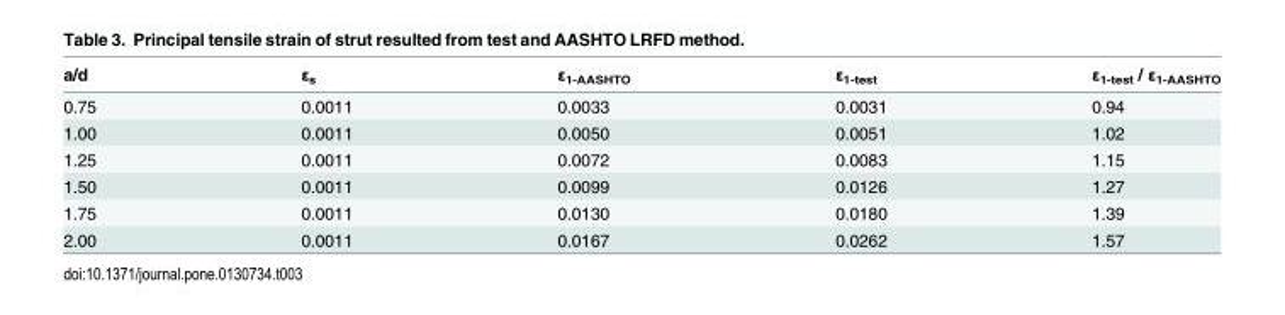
<table><thead><tr><td>a/d</td><td>εs</td><td>ε1-AASHTO</td><td>ε1-test</td><td>ε1-test / ε1-AASHTO</td></tr></thead><tbody><tr><td>0.75</td><td>0.0011</td><td>0.0033</td><td>0.0031</td><td>0.94</td></tr><tr><td>1.00</td><td>0.0011</td><td>0.0050</td><td>0.0051</td><td>1.02</td></tr><tr><td>1.25</td><td>0.0011</td><td>0.0072</td><td>0.0083</td><td>1.15</td></tr><tr><td>1.50</td><td>0.0011</td><td>0.0099</td><td>0.0126</td><td>1.27</td></tr><tr><td>1.75</td><td>0.0011</td><td>0.0130</td><td>0.0180</td><td>1.39</td></tr><tr><td>2.00</td><td>0.0011</td><td>0.0167</td><td>0.0262</td><td>1.57</td></tr></tbody></table>